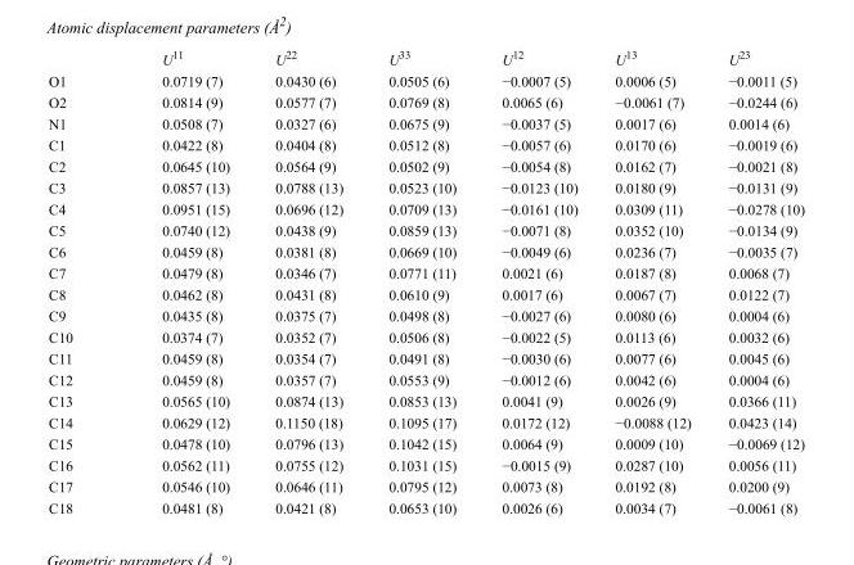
<table><thead><tr><td></td><td>U<sup>11</sup></td><td>U<sup>22</sup></td><td>U<sup>33</sup></td><td>U<sup>12</sup></td><td>U<sup>13</sup></td><td>U<sup>23</sup></td></tr></thead><tbody><tr><td>O1</td><td>0.0719 (7)</td><td>0.0430 (6)</td><td>0.0505 (6)</td><td>−0.0007 (5)</td><td>0.0006 (5)</td><td>−0.0011 (5)</td></tr><tr><td>O2</td><td>0.0814 (9)</td><td>0.0577 (7)</td><td>0.0769 (8)</td><td>0.0065 (6)</td><td>−0.0061 (7)</td><td>−0.0244 (6)</td></tr><tr><td>N1</td><td>0.0508 (7)</td><td>0.0327 (6)</td><td>0.0675 (9)</td><td>−0.0037 (5)</td><td>0.0017 (6)</td><td>0.0014 (6)</td></tr><tr><td>C1</td><td>0.0422 (8)</td><td>0.0404 (8)</td><td>0.0512 (8)</td><td>−0.0057 (6)</td><td>0.0170 (6)</td><td>−0.0019 (6)</td></tr><tr><td>C2</td><td>0.0645 (10)</td><td>0.0564 (9)</td><td>0.0502 (9)</td><td>−0.0054 (8)</td><td>0.0162 (7)</td><td>−0.0021 (8)</td></tr><tr><td>C3</td><td>0.0857 (13)</td><td>0.0788 (13)</td><td>0.0523 (10)</td><td>−0.0123 (10)</td><td>0.0180 (9)</td><td>−0.0131 (9)</td></tr><tr><td>C4</td><td>0.0951 (15)</td><td>0.0696 (12)</td><td>0.0709 (13)</td><td>−0.0161 (10)</td><td>0.0309 (11)</td><td>−0.0278 (10)</td></tr><tr><td>C5</td><td>0.0740 (12)</td><td>0.0438 (9)</td><td>0.0859 (13)</td><td>−0.0071 (8)</td><td>0.0352 (10)</td><td>−0.0134 (9)</td></tr><tr><td>C6</td><td>0.0459 (8)</td><td>0.0381 (8)</td><td>0.0669 (10)</td><td>−0.0049 (6)</td><td>0.0236 (7)</td><td>−0.0035 (7)</td></tr><tr><td>C7</td><td>0.0479 (8)</td><td>0.0346 (7)</td><td>0.0771 (11)</td><td>0.0021 (6)</td><td>0.0187 (8)</td><td>0.0068 (7)</td></tr><tr><td>C8</td><td>0.0462 (8)</td><td>0.0431 (8)</td><td>0.0610 (9)</td><td>0.0017 (6)</td><td>0.0067 (7)</td><td>0.0122 (7)</td></tr><tr><td>C9</td><td>0.0435 (8)</td><td>0.0375 (7)</td><td>0.0498 (8)</td><td>−0.0027 (6)</td><td>0.0080 (6)</td><td>0.0004 (6)</td></tr><tr><td>C10</td><td>0.0374 (7)</td><td>0.0352 (7)</td><td>0.0506 (8)</td><td>−0.0022 (5)</td><td>0.0113 (6)</td><td>0.0032 (6)</td></tr><tr><td>C11</td><td>0.0459 (8)</td><td>0.0354 (7)</td><td>0.0491 (8)</td><td>−0.0030 (6)</td><td>0.0077 (6)</td><td>0.0045 (6)</td></tr><tr><td>C12</td><td>0.0459 (8)</td><td>0.0357 (7)</td><td>0.0553 (9)</td><td>−0.0012 (6)</td><td>0.0042 (6)</td><td>0.0004 (6)</td></tr><tr><td>C13</td><td>0.0565 (10)</td><td>0.0874 (13)</td><td>0.0853 (13)</td><td>0.0041 (9)</td><td>0.0026 (9)</td><td>0.0366 (11)</td></tr><tr><td>C14</td><td>0.0629 (12)</td><td>0.1150 (18)</td><td>0.1095 (17)</td><td>0.0172 (12)</td><td>−0.0088 (12)</td><td>0.0423 (14)</td></tr><tr><td>C15</td><td>0.0478 (10)</td><td>0.0796 (13)</td><td>0.1042 (15)</td><td>0.0064 (9)</td><td>0.0009 (10)</td><td>−0.0069 (12)</td></tr><tr><td>C16</td><td>0.0562 (11)</td><td>0.0755 (12)</td><td>0.1031 (15)</td><td>−0.0015 (9)</td><td>0.0287 (10)</td><td>0.0056 (11)</td></tr><tr><td>C17</td><td>0.0546 (10)</td><td>0.0646 (11)</td><td>0.0795 (12)</td><td>0.0073 (8)</td><td>0.0192 (8)</td><td>0.0200 (9)</td></tr><tr><td>C18</td><td>0.0481 (8)</td><td>0.0421 (8)</td><td>0.0653 (10)</td><td>0.0026 (6)</td><td>0.0034 (7)</td><td>−0.0061 (8)</td></tr></tbody></table>